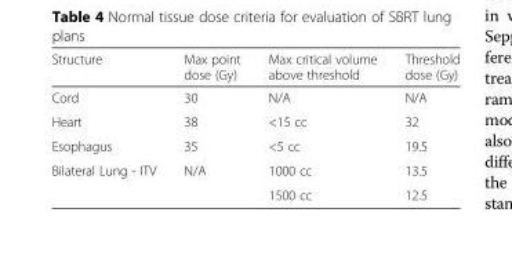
<table><thead><tr><td>Structure</td><td>Max point dose (Gy)</td><td>Max critical volume above threshold</td><td>Threshold dose (Gy)</td></tr></thead><tbody><tr><td>Cord</td><td>30</td><td>N/A</td><td>N/A</td></tr><tr><td>Heart</td><td>38</td><td>&lt;15 cc</td><td>32</td></tr><tr><td>Esophagus</td><td>35</td><td>&lt;5 cc</td><td>19.5</td></tr><tr><td rowspan="2">Bilateral Lung - ITV</td><td>N/A</td><td>1000 cc</td><td>13.5</td></tr><tr><td></td><td>1500 cc</td><td>12.5</td></tr></tbody></table>